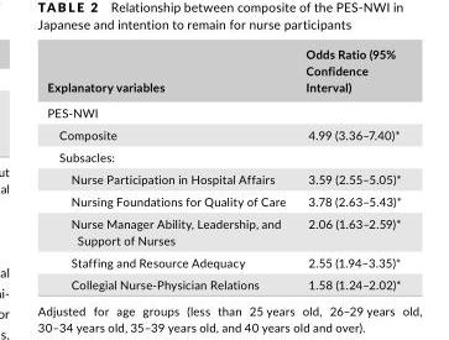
<table><thead><tr><td>Explanatory variables</td><td>Odds Ratio (95% Confidence Interval)</td></tr></thead><tbody><tr><td colspan="2">PES- NWI</td></tr><tr><td>Composite</td><td>4.99 (3.36–7.40)*</td></tr><tr><td colspan="2">Subsacles:</td></tr><tr><td>Nurse Participation in Hospital Affairs</td><td>3.59 (2.55–5.05)*</td></tr><tr><td>Nursing Foundations for Quality of Care</td><td>3.78 (2.63–5.43)*</td></tr><tr><td>Nurse Manager Ability, Leadership, and Support of Nurses</td><td>2.06 (1.63–2.59)*</td></tr><tr><td>Staffing and Resource Adequacy</td><td>2.55 (1.94–3.35)*</td></tr><tr><td>Collegial Nurse-Physician Relations</td><td>1.58 (1.24–2.02)*</td></tr></tbody></table>